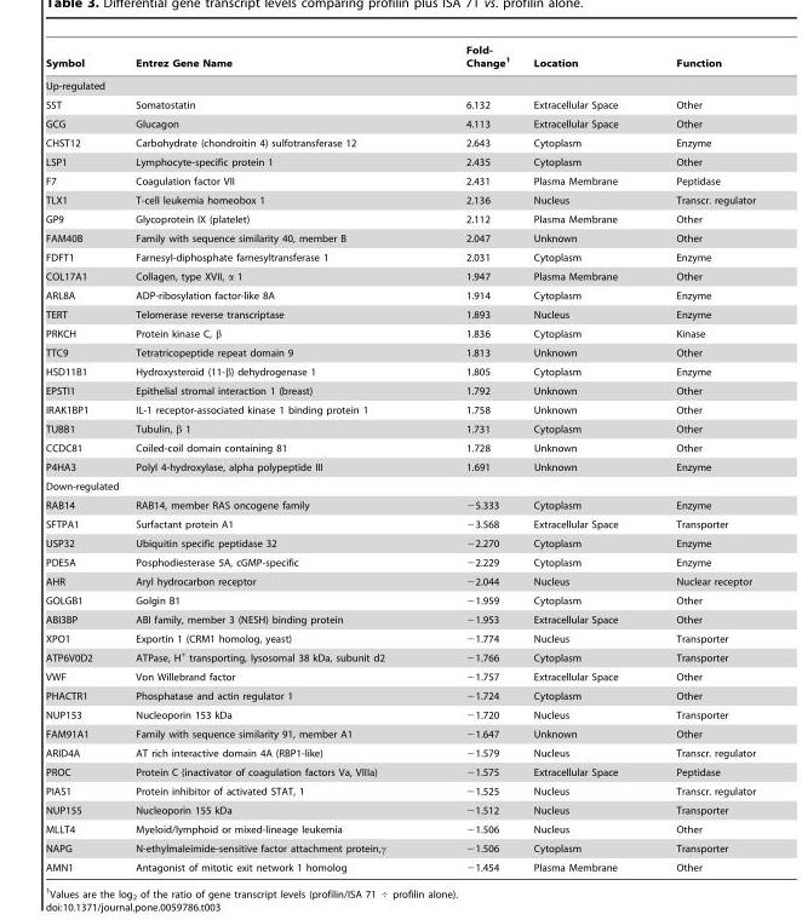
<table><thead><tr><td>Symbol</td><td>Entrez Gene Name</td><td>Fold- Change<sup>1</sup></td><td>Location</td><td>Function</td></tr></thead><tbody><tr><td colspan="5">Up-regulated</td></tr><tr><td>SST</td><td>Somatostatin</td><td>6.132</td><td>Extracellular Space</td><td>Other</td></tr><tr><td>GCG</td><td>Glucagon</td><td>4.113</td><td>Extracellular Space</td><td>Other</td></tr><tr><td>CHST12</td><td>Carbohydrate (chondroitin 4) sulfotransferase 12</td><td>2.643</td><td>Cytoplasm</td><td>Enzyme</td></tr><tr><td>LSP1</td><td>Lymphocyte-specific protein 1</td><td>2.435</td><td>Cytoplasm</td><td>Other</td></tr><tr><td>F7</td><td>Coagulation factor VII</td><td>2.431</td><td>Plasma Membrane</td><td>Peptidase</td></tr><tr><td>TLX1</td><td>T-cell leukemia homeobox 1</td><td>2.136</td><td>Nucleus</td><td>Transcr. regulator</td></tr><tr><td>GP9</td><td>Glycoprotein IX (platelet)</td><td>2.112</td><td>Plasma Membrane</td><td>Other</td></tr><tr><td>FAM40B</td><td>Family with sequence similarity 40, member B</td><td>2.047</td><td>Unknown</td><td>Other</td></tr><tr><td>FDFT1</td><td>Farnesyl-diphosphate farnesyltransferase 1</td><td>2.031</td><td>Cytoplasm</td><td>Enzyme</td></tr><tr><td>COL17A1</td><td>Collagen, type XVII, α 1</td><td>1.947</td><td>Plasma Membrane</td><td>Other</td></tr><tr><td>ARL8A</td><td>ADP-ribosylation factor-like 8A</td><td>1.914</td><td>Cytoplasm</td><td>Enzyme</td></tr><tr><td>TERT</td><td>Telomerase reverse transcriptase</td><td>1.893</td><td>Nucleus</td><td>Enzyme</td></tr><tr><td>PRKCH</td><td>Protein kinase C, β</td><td>1.836</td><td>Cytoplasm</td><td>Kinase</td></tr><tr><td>TTC9</td><td>Tetratricopeptide repeat domain 9</td><td>1.813</td><td>Unknown</td><td>Other</td></tr><tr><td>HSD11B1</td><td>Hydroxysteroid (11-β) dehydrogenase 1</td><td>1.805</td><td>Cytoplasm</td><td>Enzyme</td></tr><tr><td>EPSTI1</td><td>Epithelial stromal interaction 1 (breast)</td><td>1.792</td><td>Unknown</td><td>Other</td></tr><tr><td>IRAK1BP1</td><td>IL-1 receptor-associated kinase 1 binding protein 1</td><td>1.758</td><td>Unknown</td><td>Other</td></tr><tr><td>TUBB1</td><td>Tubulin, β 1</td><td>1.731</td><td>Cytoplasm</td><td>Other</td></tr><tr><td>CCDC81</td><td>Coiled-coil domain containing 81</td><td>1.728</td><td>Unknown</td><td>Other</td></tr><tr><td>P4HA3</td><td>Polyl 4-hydroxylase, alpha polypeptide III</td><td>1.691</td><td>Unknown</td><td>Enzyme</td></tr><tr><td colspan="5">Down-regulated</td></tr><tr><td>RAB14</td><td>RAB14, member RAS oncogene family</td><td>−5.333</td><td>Cytoplasm</td><td>Enzyme</td></tr><tr><td>SFTPA1</td><td>Surfactant protein A1</td><td>−3.568</td><td>Extracellular Space</td><td>Transporter</td></tr><tr><td>USP32</td><td>Ubiquitin specific peptidase 32</td><td>−2.270</td><td>Cytoplasm</td><td>Enzyme</td></tr><tr><td>PDE5A</td><td>Posphodiesterase 5A, cGMP-specific</td><td>−2.229</td><td>Cytoplasm</td><td>Enzyme</td></tr><tr><td>AHR</td><td>Aryl hydrocarbon receptor</td><td>−2.044</td><td>Nucleus</td><td>Nuclear receptor</td></tr><tr><td>GOLGB1</td><td>Golgin B1</td><td>−1.959</td><td>Cytoplasm</td><td>Other</td></tr><tr><td>ABI3BP</td><td>ABI family, member 3 (NESH) binding protein</td><td>−1.953</td><td>Extracellular Space</td><td>Other</td></tr><tr><td>XPO1</td><td>Exportin 1 (CRM1 homolog, yeast)</td><td>−1.774</td><td>Nucleus</td><td>Transporter</td></tr><tr><td>ATP6V0D2</td><td>ATPase, H<sup>+</sup> transporting, lysosomal 38 kDa, subunit d2</td><td>−1.766</td><td>Cytoplasm</td><td>Transporter</td></tr><tr><td>VWF</td><td>Von Willebrand factor</td><td>−1.757</td><td>Extracellular Space</td><td>Other</td></tr><tr><td>PHACTR1</td><td>Phosphatase and actin regulator 1</td><td>−1.724</td><td>Cytoplasm</td><td>Other</td></tr><tr><td>NUP153</td><td>Nucleoporin 153 kDa</td><td>−1.720</td><td>Nucleus</td><td>Transporter</td></tr><tr><td>FAM91A1</td><td>Family with sequence similarity 91, member A1</td><td>−1.647</td><td>Unknown</td><td>Other</td></tr><tr><td>ARID4A</td><td>AT rich interactive domain 4A (RBP1-like)</td><td>−1.579</td><td>Nucleus</td><td>Transcr. regulator</td></tr><tr><td>PROC</td><td>Protein C (inactivator of coagulation factors Va, VIIIa)</td><td>−1.575</td><td>Extracellular Space</td><td>Peptidase</td></tr><tr><td>PIAS1</td><td>Protein inhibitor of activated STAT, 1</td><td>−1.525</td><td>Nucleus</td><td>Transcr. regulator</td></tr><tr><td>NUP155</td><td>Nucleoporin 155 kDa</td><td>−1.512</td><td>Nucleus</td><td>Transporter</td></tr><tr><td>MLLT4</td><td>Myeloid/lymphoid or mixed-lineage leukemia</td><td>−1.506</td><td>Nucleus</td><td>Other</td></tr><tr><td>NAPG</td><td>N-ethylmaleimide-sensitive factor attachment protein,γ</td><td>−1.506</td><td>Cytoplasm</td><td>Transporter</td></tr><tr><td>AMN1</td><td>Antagonist of mitotic exit network 1 homolog</td><td>−1.454</td><td>Plasma Membrane</td><td>Other</td></tr></tbody></table>